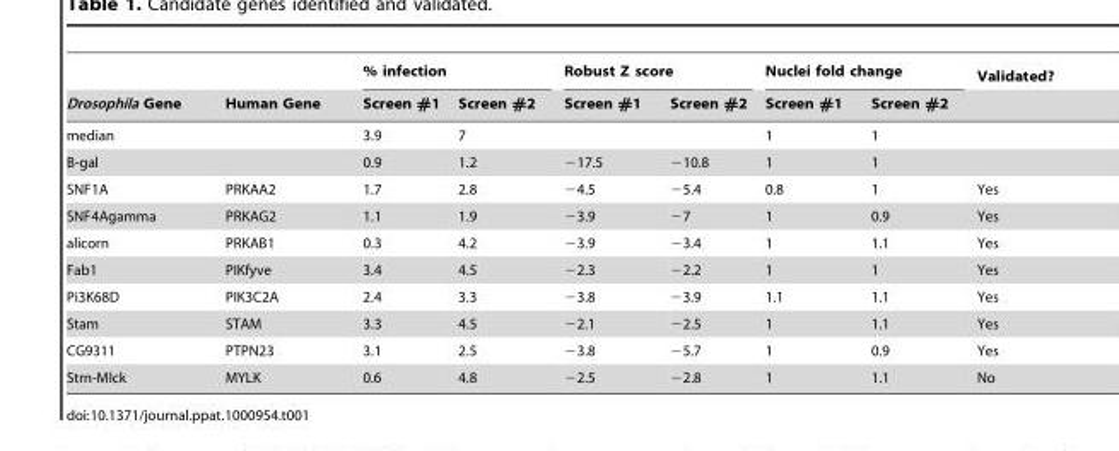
<table><thead><tr><td rowspan="2">Drosophila Gene</td><td rowspan="2">Human Gene</td><td colspan="2">% infection</td><td colspan="2">Robust Z score</td><td colspan="2">Nuclei fold change</td><td rowspan="2">Validated?</td></tr><tr><td>Screen #1</td><td>Screen #2</td><td>Screen #1</td><td>Screen #2</td><td>Screen #1</td><td>Screen #2</td></tr></thead><tbody><tr><td>median</td><td></td><td>3.9</td><td>7</td><td></td><td></td><td>1</td><td>1</td><td></td></tr><tr><td>B-gal</td><td></td><td>0.9</td><td>1.2</td><td>−17.5</td><td>−10.8</td><td>1</td><td>1</td><td></td></tr><tr><td>SNF1A</td><td>PRKAA2</td><td>1.7</td><td>2.8</td><td>−4.5</td><td>−5.4</td><td>0.8</td><td>1</td><td>Yes</td></tr><tr><td>SNF4Agamma</td><td>PRKAG2</td><td>1.1</td><td>1.9</td><td>−3.9</td><td>−7</td><td>1</td><td>0.9</td><td>Yes</td></tr><tr><td>alicorn</td><td>PRKAB1</td><td>0.3</td><td>4.2</td><td>−3.9</td><td>−3.4</td><td>1</td><td>1.1</td><td>Yes</td></tr><tr><td>Fab1</td><td>PIKfyve</td><td>3.4</td><td>4.5</td><td>−2.3</td><td>−2.2</td><td>1</td><td>1</td><td>Yes</td></tr><tr><td>Pi3K68D</td><td>PIK3C2A</td><td>2.4</td><td>3.3</td><td>−3.8</td><td>−3.9</td><td>1.1</td><td>1.1</td><td>Yes</td></tr><tr><td>Stam</td><td>STAM</td><td>3.3</td><td>4.5</td><td>−2.1</td><td>−2.5</td><td>1</td><td>1.1</td><td>Yes</td></tr><tr><td>CG9311</td><td>PTPN23</td><td>3.1</td><td>2.5</td><td>−3.8</td><td>−5.7</td><td>1</td><td>0.9</td><td>Yes</td></tr><tr><td>Strn-Mlck</td><td>MYLK</td><td>0.6</td><td>4.8</td><td>−2.5</td><td>−2.8</td><td>1</td><td>1.1</td><td>No</td></tr></tbody></table>